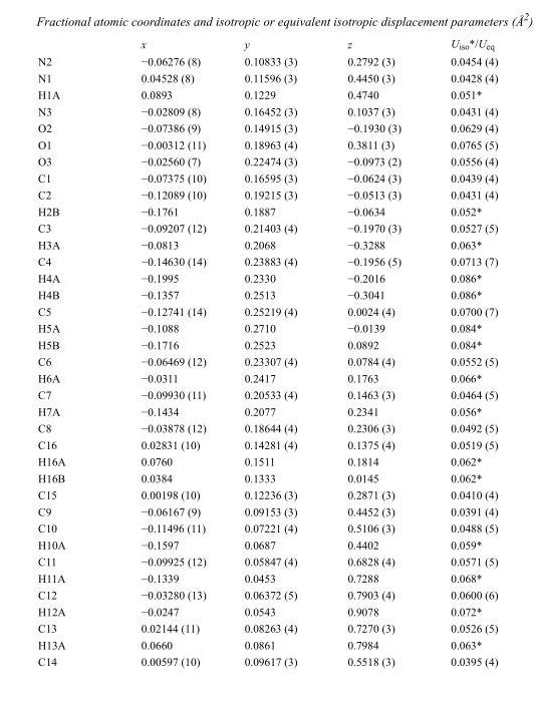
<table><thead><tr><td></td><td>x</td><td>y</td><td>z</td><td>U<sub>iso</sub>*/U<sub>eq</sub></td></tr></thead><tbody><tr><td>N2</td><td>−0.06276 (8)</td><td>0.10833 (3)</td><td>0.2792 (3)</td><td>0.0454 (4)</td></tr><tr><td>N1</td><td>0.04528 (8)</td><td>0.11596 (3)</td><td>0.4450 (3)</td><td>0.0428 (4)</td></tr><tr><td>H1A</td><td>0.0893</td><td>0.1229</td><td>0.4740</td><td>0.051*</td></tr><tr><td>N3</td><td>−0.02809 (8)</td><td>0.16452 (3)</td><td>0.1037 (3)</td><td>0.0431 (4)</td></tr><tr><td>O2</td><td>−0.07386 (9)</td><td>0.14915 (3)</td><td>−0.1930 (3)</td><td>0.0629 (4)</td></tr><tr><td>O1</td><td>−0.00312 (11)</td><td>0.18963 (4)</td><td>0.3811 (3)</td><td>0.0765 (5)</td></tr><tr><td>O3</td><td>−0.02560 (7)</td><td>0.22474 (3)</td><td>−0.0973 (2)</td><td>0.0556 (4)</td></tr><tr><td>C1</td><td>−0.07375 (10)</td><td>0.16595 (3)</td><td>−0.0624 (3)</td><td>0.0439 (4)</td></tr><tr><td>C2</td><td>−0.12089 (10)</td><td>0.19215 (3)</td><td>−0.0513 (3)</td><td>0.0431 (4)</td></tr><tr><td>H2B</td><td>−0.1761</td><td>0.1887</td><td>−0.0634</td><td>0.052*</td></tr><tr><td>C3</td><td>−0.09207 (12)</td><td>0.21403 (4)</td><td>−0.1970 (3)</td><td>0.0527 (5)</td></tr><tr><td>H3A</td><td>−0.0813</td><td>0.2068</td><td>−0.3288</td><td>0.063*</td></tr><tr><td>C4</td><td>−0.14630 (14)</td><td>0.23883 (4)</td><td>−0.1956 (5)</td><td>0.0713 (7)</td></tr><tr><td>H4A</td><td>−0.1995</td><td>0.2330</td><td>−0.2016</td><td>0.086*</td></tr><tr><td>H4B</td><td>−0.1357</td><td>0.2513</td><td>−0.3041</td><td>0.086*</td></tr><tr><td>C5</td><td>−0.12741 (14)</td><td>0.25219 (4)</td><td>0.0024 (4)</td><td>0.0700 (7)</td></tr><tr><td>H5A</td><td>−0.1088</td><td>0.2710</td><td>−0.0139</td><td>0.084*</td></tr><tr><td>H5B</td><td>−0.1716</td><td>0.2523</td><td>0.0892</td><td>0.084*</td></tr><tr><td>C6</td><td>−0.06469 (12)</td><td>0.23307 (4)</td><td>0.0784 (4)</td><td>0.0552 (5)</td></tr><tr><td>H6A</td><td>−0.0311</td><td>0.2417</td><td>0.1763</td><td>0.066*</td></tr><tr><td>C7</td><td>−0.09930 (11)</td><td>0.20533 (4)</td><td>0.1463 (3)</td><td>0.0464 (5)</td></tr><tr><td>H7A</td><td>−0.1434</td><td>0.2077</td><td>0.2341</td><td>0.056*</td></tr><tr><td>C8</td><td>−0.03878 (12)</td><td>0.18644 (4)</td><td>0.2306 (3)</td><td>0.0492 (5)</td></tr><tr><td>C16</td><td>0.02831 (10)</td><td>0.14281 (4)</td><td>0.1375 (4)</td><td>0.0519 (5)</td></tr><tr><td>H16A</td><td>0.0760</td><td>0.1511</td><td>0.1814</td><td>0.062*</td></tr><tr><td>H16B</td><td>0.0384</td><td>0.1333</td><td>0.0145</td><td>0.062*</td></tr><tr><td>C15</td><td>0.00198 (10)</td><td>0.12236 (3)</td><td>0.2871 (3)</td><td>0.0410 (4)</td></tr><tr><td>C9</td><td>−0.06167 (9)</td><td>0.09153 (3)</td><td>0.4452 (3)</td><td>0.0391 (4)</td></tr><tr><td>C10</td><td>−0.11496 (11)</td><td>0.07221 (4)</td><td>0.5106 (3)</td><td>0.0488 (5)</td></tr><tr><td>H10A</td><td>−0.1597</td><td>0.0687</td><td>0.4402</td><td>0.059*</td></tr><tr><td>C11</td><td>−0.09925 (12)</td><td>0.05847 (4)</td><td>0.6828 (4)</td><td>0.0571 (5)</td></tr><tr><td>H11A</td><td>−0.1339</td><td>0.0453</td><td>0.7288</td><td>0.068*</td></tr><tr><td>C12</td><td>−0.03280 (13)</td><td>0.06372 (5)</td><td>0.7903 (4)</td><td>0.0600 (6)</td></tr><tr><td>H12A</td><td>−0.0247</td><td>0.0543</td><td>0.9078</td><td>0.072*</td></tr><tr><td>C13</td><td>0.02144 (11)</td><td>0.08263 (4)</td><td>0.7270 (3)</td><td>0.0526 (5)</td></tr><tr><td>H13A</td><td>0.0660</td><td>0.0861</td><td>0.7984</td><td>0.063*</td></tr><tr><td>C14</td><td>0.00597 (10)</td><td>0.09617 (3)</td><td>0.5518 (3)</td><td>0.0395 (4)</td></tr></tbody></table>